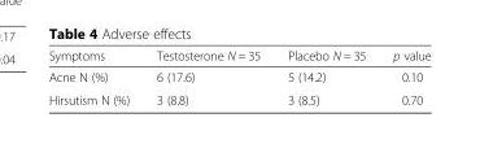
<table><thead><tr><td>Symptoms</td><td>Testosterone N = 35</td><td>Placebo N = 35</td><td>p value</td></tr></thead><tbody><tr><td>Acne N (%)</td><td>6 (17.6)</td><td>5 (14.2)</td><td>0.10</td></tr><tr><td>Hirsutism N (%)</td><td>3 (8.8)</td><td>3 (8.5)</td><td>0.70</td></tr></tbody></table>